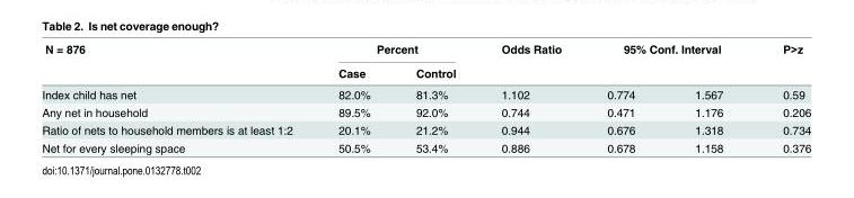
<table><thead><tr><td rowspan="2">N = 876</td><td colspan="2">Percent</td><td rowspan="2">Odds Ratio</td><td colspan="2">95% Conf. Interval</td><td rowspan="2">P&gt;z</td></tr><tr><td>Case</td><td>Control</td><td></td><td></td></tr></thead><tbody><tr><td>Index child has net</td><td>82.0%</td><td>81.3%</td><td>1.102</td><td>0.774</td><td>1.567</td><td>0.59</td></tr><tr><td>Any net in household</td><td>89.5%</td><td>92.0%</td><td>0.744</td><td>0.471</td><td>1.176</td><td>0.206</td></tr><tr><td>Ratio of nets to household members is at least 1:2</td><td>20.1%</td><td>21.2%</td><td>0.944</td><td>0.676</td><td>1.318</td><td>0.734</td></tr><tr><td>Net for every sleeping space</td><td>50.5%</td><td>53.4%</td><td>0.886</td><td>0.678</td><td>1.158</td><td>0.376</td></tr></tbody></table>